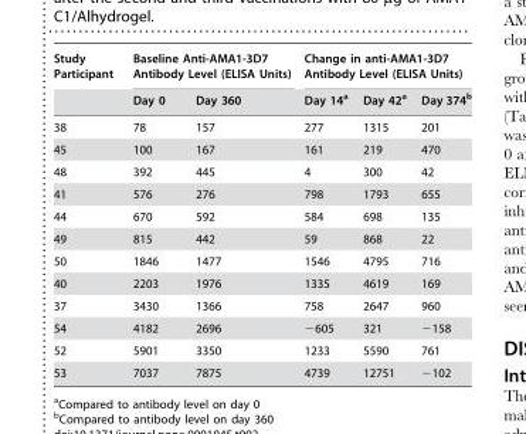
<table><thead><tr><td rowspan="2">Study Participant</td><td colspan="2">Baseline Anti-AMA1-3D7 Antibody Level (ELISA Units)</td><td colspan="3">Change in anti-AMA1-3D7 Antibody Level (ELISA Units)</td></tr><tr><td>Day 0</td><td>Day 360</td><td>Day 14<sup>a</sup></td><td>Day 42<sup>a</sup></td><td>Day 374<sup>b</sup></td></tr></thead><tbody><tr><td>38</td><td>78</td><td>157</td><td>277</td><td>1315</td><td>201</td></tr><tr><td>45</td><td>100</td><td>167</td><td>161</td><td>219</td><td>470</td></tr><tr><td>48</td><td>392</td><td>445</td><td>4</td><td>300</td><td>42</td></tr><tr><td>41</td><td>576</td><td>276</td><td>798</td><td>1793</td><td>655</td></tr><tr><td>44</td><td>670</td><td>592</td><td>584</td><td>698</td><td>135</td></tr><tr><td>49</td><td>815</td><td>442</td><td>59</td><td>868</td><td>22</td></tr><tr><td>50</td><td>1846</td><td>1477</td><td>1546</td><td>4795</td><td>716</td></tr><tr><td>40</td><td>2203</td><td>1976</td><td>1335</td><td>4619</td><td>169</td></tr><tr><td>37</td><td>3430</td><td>1366</td><td>758</td><td>2647</td><td>960</td></tr><tr><td>54</td><td>4182</td><td>2696</td><td>−605</td><td>321</td><td>−158</td></tr><tr><td>52</td><td>5901</td><td>3350</td><td>1233</td><td>5590</td><td>761</td></tr><tr><td>53</td><td>7037</td><td>7875</td><td>4739</td><td>12751</td><td>−102</td></tr></tbody></table>